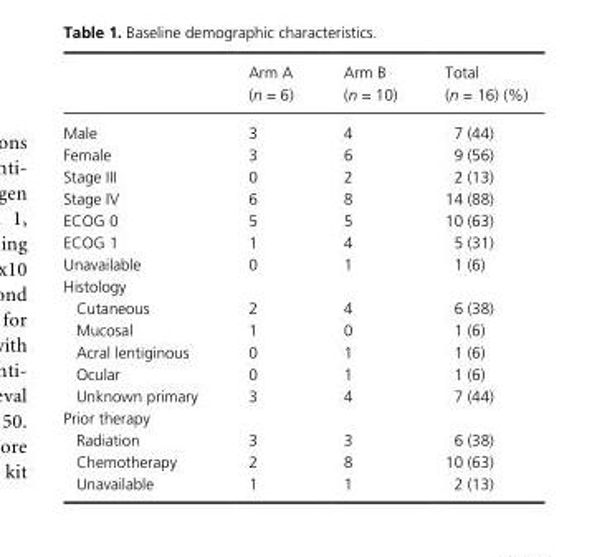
<table><thead><tr><td></td><td>Arm A (n = 6)</td><td>Arm B (n = 10)</td><td>Total (n = 16) (%)</td></tr></thead><tbody><tr><td>Male</td><td>3</td><td>4</td><td>7 (44)</td></tr><tr><td>Female</td><td>3</td><td>6</td><td>9 (56)</td></tr><tr><td>Stage III</td><td>0</td><td>2</td><td>2 (13)</td></tr><tr><td>Stage IV</td><td>6</td><td>8</td><td>14 (88)</td></tr><tr><td>ECOG 0</td><td>5</td><td>5</td><td>10 (63)</td></tr><tr><td>ECOG 1</td><td>1</td><td>4</td><td>5 (31)</td></tr><tr><td>Unavailable</td><td>0</td><td>1</td><td>1 (6)</td></tr><tr><td colspan="4">Histology</td></tr><tr><td>Cutaneous</td><td>2</td><td>4</td><td>6 (38)</td></tr><tr><td>Mucosal</td><td>1</td><td>0</td><td>1 (6)</td></tr><tr><td>Acral lentiginous</td><td>0</td><td>1</td><td>1 (6)</td></tr><tr><td>Ocular</td><td>0</td><td>1</td><td>1 (6)</td></tr><tr><td>Unknown primary</td><td>3</td><td>4</td><td>7 (44)</td></tr><tr><td colspan="4">Prior therapy</td></tr><tr><td>Radiation</td><td>3</td><td>3</td><td>6 (38)</td></tr><tr><td>Chemotherapy</td><td>2</td><td>8</td><td>10 (63)</td></tr><tr><td>Unavailable</td><td>1</td><td>1</td><td>2 (13)</td></tr></tbody></table>